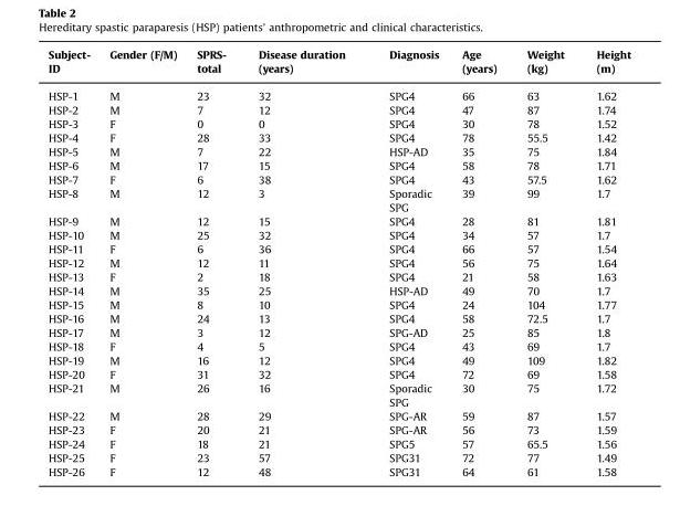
<table><thead><tr><td>Subject- ID</td><td>Gender (F/M)</td><td>SPRS- total</td><td>Disease duration (years)</td><td>Diagnosis</td><td>Age (years)</td><td>Weight (kg)</td><td>Height (m)</td></tr></thead><tbody><tr><td>HSP-1</td><td>M</td><td>23</td><td>32</td><td>SPG4</td><td>66</td><td>63</td><td>1.62</td></tr><tr><td>HSP-2</td><td>M</td><td>7</td><td>12</td><td>SPG4</td><td>47</td><td>87</td><td>1.74</td></tr><tr><td>HSP-3</td><td>F</td><td>0</td><td>0</td><td>SPG4</td><td>30</td><td>78</td><td>1.52</td></tr><tr><td>HSP-4</td><td>F</td><td>28</td><td>33</td><td>SPG4</td><td>78</td><td>55.5</td><td>1.42</td></tr><tr><td>HSP-5</td><td>M</td><td>7</td><td>22</td><td>HSP-AD</td><td>35</td><td>75</td><td>1.84</td></tr><tr><td>HSP-6</td><td>M</td><td>17</td><td>15</td><td>SPG4</td><td>58</td><td>78</td><td>1.71</td></tr><tr><td>HSP-7</td><td>F</td><td>6</td><td>38</td><td>SPG4</td><td>43</td><td>57.5</td><td>1.62</td></tr><tr><td>HSP-8</td><td>M</td><td>12</td><td>3</td><td>Sporadic SPG</td><td>39</td><td>99</td><td>1.7</td></tr><tr><td>HSP-9</td><td>M</td><td>12</td><td>15</td><td>SPG4</td><td>28</td><td>81</td><td>1.81</td></tr><tr><td>HSP-10</td><td>M</td><td>25</td><td>32</td><td>SPG4</td><td>34</td><td>57</td><td>1.7</td></tr><tr><td>HSP-11</td><td>F</td><td>6</td><td>36</td><td>SPG4</td><td>66</td><td>57</td><td>1.54</td></tr><tr><td>HSP-12</td><td>M</td><td>12</td><td>11</td><td>SPG4</td><td>56</td><td>75</td><td>1.64</td></tr><tr><td>HSP-13</td><td>F</td><td>2</td><td>18</td><td>SPG4</td><td>21</td><td>58</td><td>1.63</td></tr><tr><td>HSP-14</td><td>M</td><td>35</td><td>25</td><td>HSP-AD</td><td>49</td><td>70</td><td>1.7</td></tr><tr><td>HSP-15</td><td>M</td><td>8</td><td>10</td><td>SPG4</td><td>24</td><td>104</td><td>1.77</td></tr><tr><td>HSP-16</td><td>M</td><td>24</td><td>13</td><td>SPG4</td><td>58</td><td>72.5</td><td>1.7</td></tr><tr><td>HSP-17</td><td>M</td><td>3</td><td>12</td><td>SPG-AD</td><td>25</td><td>85</td><td>1.8</td></tr><tr><td>HSP-18</td><td>F</td><td>4</td><td>5</td><td>SPG4</td><td>43</td><td>69</td><td>1.7</td></tr><tr><td>HSP-19</td><td>M</td><td>16</td><td>12</td><td>SPG4</td><td>49</td><td>109</td><td>1.82</td></tr><tr><td>HSP-20</td><td>F</td><td>31</td><td>32</td><td>SPG4</td><td>72</td><td>69</td><td>1.58</td></tr><tr><td>HSP-21</td><td>M</td><td>26</td><td>16</td><td>Sporadic SPG</td><td>30</td><td>75</td><td>1.72</td></tr><tr><td>HSP-22</td><td>M</td><td>28</td><td>29</td><td>SPG-AR</td><td>59</td><td>87</td><td>1.57</td></tr><tr><td>HSP-23</td><td>F</td><td>20</td><td>21</td><td>SPG-AR</td><td>56</td><td>73</td><td>1.59</td></tr><tr><td>HSP-24</td><td>F</td><td>18</td><td>21</td><td>SPG5</td><td>57</td><td>65.5</td><td>1.56</td></tr><tr><td>HSP-25</td><td>F</td><td>23</td><td>57</td><td>SPG31</td><td>72</td><td>77</td><td>1.49</td></tr><tr><td>HSP-26</td><td>F</td><td>12</td><td>48</td><td>SPG31</td><td>64</td><td>61</td><td>1.58</td></tr></tbody></table>